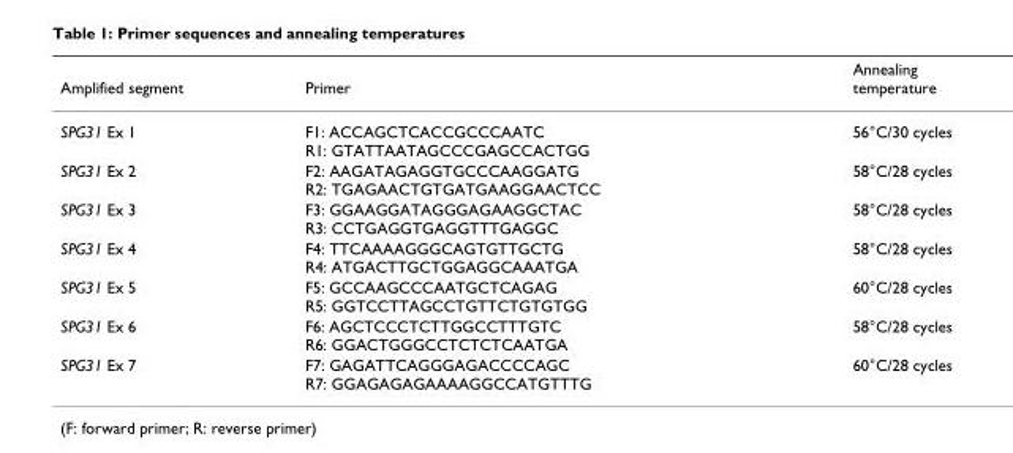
<table><thead><tr><td>Amplified segment</td><td>Primer</td><td>Annealing temperature</td></tr></thead><tbody><tr><td>SPG31 Ex 1</td><td>F1: ACCAGCTCACCGCCCAATC R1: GTATTAATAGCCCGAGCCACTGG</td><td>56°C/30 cycles</td></tr><tr><td>SPG31 Ex 2</td><td>F2: AAGATAGAGGTGCCCAAGGATG R2: TGAGAACTGTGATGAAGGAACTCC</td><td>58°C/28 cycles</td></tr><tr><td>SPG31 Ex 3</td><td>F3: GGAAGGATAGGGAGAAGGCTAC R3: CCTGAGGTGAGGTTTGAGGC</td><td>58°C/28 cycles</td></tr><tr><td>SPG31 Ex 4</td><td>F4: TTCAAAAGGGCAGTGTTGCTG R4: ATGACTTGCTGGAGGCAAATGA</td><td>58°C/28 cycles</td></tr><tr><td>SPG31 Ex 5</td><td>F5: GCCAAGCCCAATGCTCAGAG R5: GGTCCTTAGCCTGTTCTGTGTGG</td><td>60°C/28 cycles</td></tr><tr><td>SPG31 Ex 6</td><td>F6: AGCTCCCTCTTGGCCTTTGTC R6: GGACTGGGCCTCTCTCAATGA</td><td>58°C/28 cycles</td></tr><tr><td>SPG31 Ex 7</td><td>F7: GAGATTCAGGGAGACCCCAGC R7: GGAGAGAGAAAAGGCCATGTTTG</td><td>60°C/28 cycles</td></tr></tbody></table>